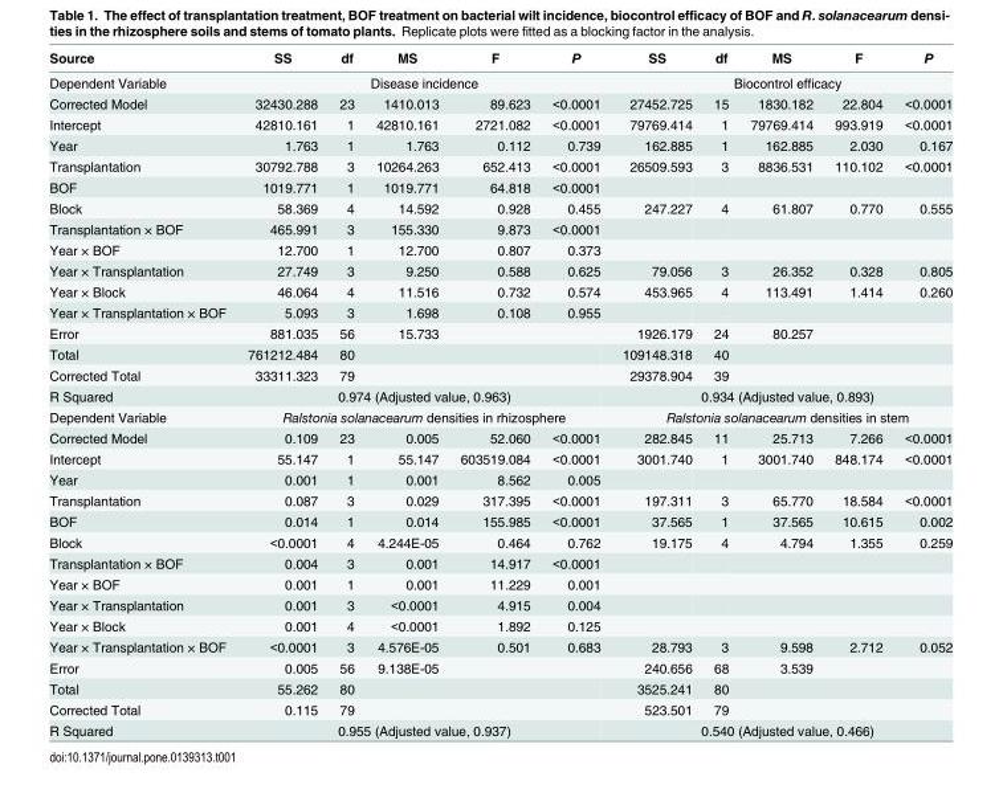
<table><thead><tr><td>Source</td><td>SS</td><td>df</td><td>MS</td><td>F</td><td>P</td><td>SS</td><td>df</td><td>MS</td><td>F</td><td>P</td></tr></thead><tbody><tr><td>Dependent Variable</td><td colspan="5">Disease incidence</td><td colspan="5">Biocontrol efficacy</td></tr><tr><td>Corrected Model</td><td>32430.288</td><td>23</td><td>1410.013</td><td>89.623</td><td>&lt;0.0001</td><td>27452.725</td><td>15</td><td>1830.182</td><td>22.804</td><td>&lt;0.0001</td></tr><tr><td>Intercept</td><td>42810.161</td><td>1</td><td>42810.161</td><td>2721.082</td><td>&lt;0.0001</td><td>79769.414</td><td>1</td><td>79769.414</td><td>993.919</td><td>&lt;0.0001</td></tr><tr><td>Year</td><td>1.763</td><td>1</td><td>1.763</td><td>0.112</td><td>0.739</td><td>162.885</td><td>1</td><td>162.885</td><td>2.030</td><td>0.167</td></tr><tr><td>Transplantation</td><td>30792.788</td><td>3</td><td>10264.263</td><td>652.413</td><td>&lt;0.0001</td><td>26509.593</td><td>3</td><td>8836.531</td><td>110.102</td><td>&lt;0.0001</td></tr><tr><td>BOF</td><td>1019.771</td><td>1</td><td>1019.771</td><td>64.818</td><td>&lt;0.0001</td><td></td><td></td><td></td><td></td><td></td></tr><tr><td>Block</td><td>58.369</td><td>4</td><td>14.592</td><td>0.928</td><td>0.455</td><td>247.227</td><td>4</td><td>61.807</td><td>0.770</td><td>0.555</td></tr><tr><td>Transplantation × BOF</td><td>465.991</td><td>3</td><td>155.330</td><td>9.873</td><td>&lt;0.0001</td><td></td><td></td><td></td><td></td><td></td></tr><tr><td>Year × BOF</td><td>12.700</td><td>1</td><td>12.700</td><td>0.807</td><td>0.373</td><td></td><td></td><td></td><td></td><td></td></tr><tr><td>Year × Transplantation</td><td>27.749</td><td>3</td><td>9.250</td><td>0.588</td><td>0.625</td><td>79.056</td><td>3</td><td>26.352</td><td>0.328</td><td>0.805</td></tr><tr><td>Year × Block</td><td>46.064</td><td>4</td><td>11.516</td><td>0.732</td><td>0.574</td><td>453.965</td><td>4</td><td>113.491</td><td>1.414</td><td>0.260</td></tr><tr><td>Year × Transplantation × BOF</td><td>5.093</td><td>3</td><td>1.698</td><td>0.108</td><td>0.955</td><td></td><td></td><td></td><td></td><td></td></tr><tr><td>Error</td><td>881.035</td><td>56</td><td>15.733</td><td></td><td></td><td>1926.179</td><td>24</td><td>80.257</td><td></td><td></td></tr><tr><td>Total</td><td>761212.484</td><td>80</td><td></td><td></td><td></td><td>109148.318</td><td>40</td><td></td><td></td><td></td></tr><tr><td>Corrected Total</td><td>33311.323</td><td>79</td><td></td><td></td><td></td><td>29378.904</td><td>39</td><td></td><td></td><td></td></tr><tr><td>R Squared</td><td colspan="5">0.974 (Adjusted value, 0.963)</td><td colspan="5">0.934 (Adjusted value, 0.893)</td></tr><tr><td>Dependent Variable</td><td colspan="5">Ralstonia solanacearum densities in rhizosphere</td><td colspan="5">Ralstonia solanacearum densities in stem</td></tr><tr><td>Corrected Model</td><td>0.109</td><td>23</td><td>0.005</td><td>52.060</td><td>&lt;0.0001</td><td>282.845</td><td>11</td><td>25.713</td><td>7.266</td><td>&lt;0.0001</td></tr><tr><td>Intercept</td><td>55.147</td><td>1</td><td>55.147</td><td>603519.084</td><td>&lt;0.0001</td><td>3001.740</td><td>1</td><td>3001.740</td><td>848.174</td><td>&lt;0.0001</td></tr><tr><td>Year</td><td>0.001</td><td>1</td><td>0.001</td><td>8.562</td><td>0.005</td><td></td><td></td><td></td><td></td><td></td></tr><tr><td>Transplantation</td><td>0.087</td><td>3</td><td>0.029</td><td>317.395</td><td>&lt;0.0001</td><td>197.311</td><td>3</td><td>65.770</td><td>18.584</td><td>&lt;0.0001</td></tr><tr><td>BOF</td><td>0.014</td><td>1</td><td>0.014</td><td>155.985</td><td>&lt;0.0001</td><td>37.565</td><td>1</td><td>37.565</td><td>10.615</td><td>0.002</td></tr><tr><td>Block</td><td>&lt;0.0001</td><td>4</td><td>4.244E-05</td><td>0.464</td><td>0.762</td><td>19.175</td><td>4</td><td>4.794</td><td>1.355</td><td>0.259</td></tr><tr><td>Transplantation × BOF</td><td>0.004</td><td>3</td><td>0.001</td><td>14.917</td><td>&lt;0.0001</td><td></td><td></td><td></td><td></td><td></td></tr><tr><td>Year × BOF</td><td>0.001</td><td>1</td><td>0.001</td><td>11.229</td><td>0.001</td><td></td><td></td><td></td><td></td><td></td></tr><tr><td>Year × Transplantation</td><td>0.001</td><td>3</td><td>&lt;0.0001</td><td>4.915</td><td>0.004</td><td></td><td></td><td></td><td></td><td></td></tr><tr><td>Year × Block</td><td>0.001</td><td>4</td><td>&lt;0.0001</td><td>1.892</td><td>0.125</td><td></td><td></td><td></td><td></td><td></td></tr><tr><td>Year × Transplantation × BOF</td><td>&lt;0.0001</td><td>3</td><td>4.576E-05</td><td>0.501</td><td>0.683</td><td>28.793</td><td>3</td><td>9.598</td><td>2.712</td><td>0.052</td></tr><tr><td>Error</td><td>0.005</td><td>56</td><td>9.138E-05</td><td></td><td></td><td>240.656</td><td>68</td><td>3.539</td><td></td><td></td></tr><tr><td>Total</td><td>55.262</td><td>80</td><td></td><td></td><td></td><td>3525.241</td><td>80</td><td></td><td></td><td></td></tr><tr><td>Corrected Total</td><td>0.115</td><td>79</td><td></td><td></td><td></td><td>523.501</td><td>79</td><td></td><td></td><td></td></tr><tr><td>R Squared</td><td colspan="5">0.955 (Adjusted value, 0.937)</td><td colspan="5">0.540 (Adjusted value, 0.466)</td></tr></tbody></table>